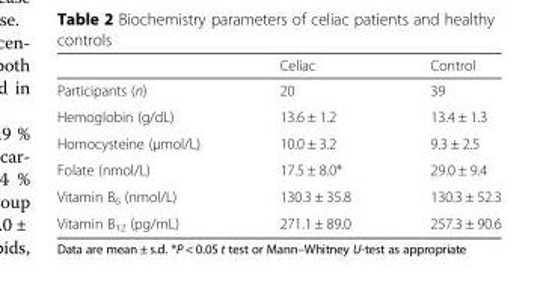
<table><thead><tr><td></td><td>Celiac</td><td>Control</td></tr></thead><tbody><tr><td>Participants (n)</td><td>20</td><td>39</td></tr><tr><td>Hemoglobin (g/dL)</td><td>13.6 ± 1.2</td><td>13.4 ± 1.3</td></tr><tr><td>Homocysteine (μmol/L)</td><td>10.0 ± 3.2</td><td>9.3 ± 2.5</td></tr><tr><td>Folate (nmol/L)</td><td>17.5 ± 8.0*</td><td>29.0 ± 9.4</td></tr><tr><td>Vitamin B<sub>6</sub> (nmol/L)</td><td>130.3 ± 35.8</td><td>130.3 ± 52.3</td></tr><tr><td>Vitamin B<sub>12</sub> (pg/mL)</td><td>271.1 ± 89.0</td><td>257.3 ± 90.6</td></tr></tbody></table>